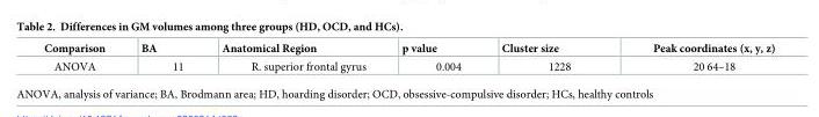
<table><thead><tr><td>Comparison</td><td>BA</td><td>Anatomical Region</td><td>p value</td><td>Cluster size</td><td>Peak coordinates (x, y, z)</td></tr></thead><tbody><tr><td>ANOVA</td><td>11</td><td>R. superior frontal gyrus</td><td>0.004</td><td>1228</td><td>20 64–18</td></tr></tbody></table>